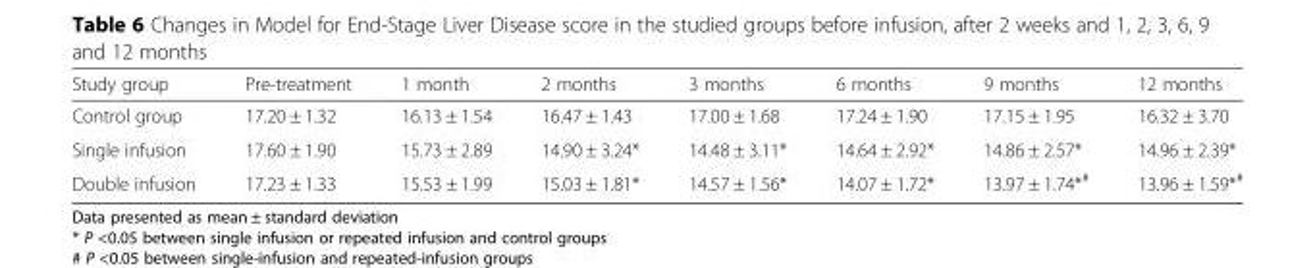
<table><thead><tr><td>Study group</td><td>Pre-treatment</td><td>1 month</td><td>2 months</td><td>3 months</td><td>6 months</td><td>9 months</td><td>12 months</td></tr></thead><tbody><tr><td>Control group</td><td>17.20 ± 1.32</td><td>16.13 ± 1.54</td><td>16.47 ± 1.43</td><td>17.00 ± 1.68</td><td>17.24 ± 1.90</td><td>17.15 ± 1.95</td><td>16.32 ± 3.70</td></tr><tr><td>Single infusion</td><td>17.60 ± 1.90</td><td>15.73 ± 2.89</td><td>14.90 ± 3.24*</td><td>14.48 ± 3.11*</td><td>14.64 ± 2.92*</td><td>14.86 ± 2.57*</td><td>14.96 ± 2.39*</td></tr><tr><td>Double infusion</td><td>17.23 ± 1.33</td><td>15.53 ± 1.99</td><td>15.03 ± 1.81*</td><td>14.57 ± 1.56*</td><td>14.07 ± 1.72*</td><td>13.97 ± 1.74*<sup>#</sup></td><td>13.96 ± 1.59*<sup>#</sup></td></tr></tbody></table>